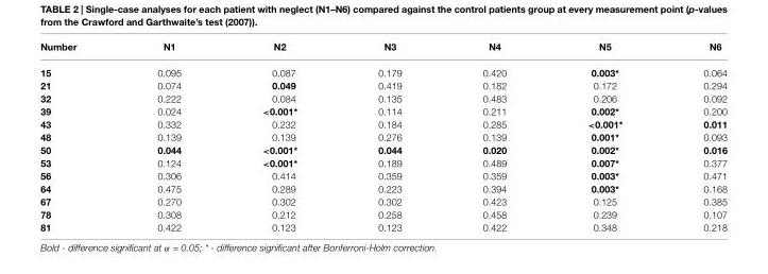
<table><thead><tr><td>Number</td><td>N1</td><td>N2</td><td>N3</td><td>N4</td><td>N5</td><td>N6</td></tr></thead><tbody><tr><td>15</td><td>0.095</td><td>0.087</td><td>0.179</td><td>0.420</td><td>0.003*</td><td>0.064</td></tr><tr><td>21</td><td>0.074</td><td>0.049</td><td>0.419</td><td>0.182</td><td>0.172</td><td>0.294</td></tr><tr><td>32</td><td>0.222</td><td>0.084</td><td>0.135</td><td>0.483</td><td>0.206</td><td>0.092</td></tr><tr><td>39</td><td>0.024</td><td>&lt;0.001*</td><td>0.114</td><td>0.211</td><td>0.002*</td><td>0.200</td></tr><tr><td>43</td><td>0.332</td><td>0.232</td><td>0.184</td><td>0.285</td><td>&lt;0.001*</td><td>0.011</td></tr><tr><td>48</td><td>0.139</td><td>0.139</td><td>0.276</td><td>0.139</td><td>0.001*</td><td>0.093</td></tr><tr><td>50</td><td>0.044</td><td>&lt;0.001*</td><td>0.044</td><td>0.020</td><td>0.002*</td><td>0.016</td></tr><tr><td>53</td><td>0.124</td><td>&lt;0.001*</td><td>0.189</td><td>0.489</td><td>0.007*</td><td>0.377</td></tr><tr><td>56</td><td>0.306</td><td>0.414</td><td>0.359</td><td>0.359</td><td>0.003*</td><td>0.471</td></tr><tr><td>64</td><td>0.475</td><td>0.289</td><td>0.223</td><td>0.394</td><td>0.003*</td><td>0.168</td></tr><tr><td>67</td><td>0.270</td><td>0.302</td><td>0.302</td><td>0.423</td><td>0.125</td><td>0.385</td></tr><tr><td>78</td><td>0.308</td><td>0.212</td><td>0.258</td><td>0.458</td><td>0.239</td><td>0.107</td></tr><tr><td>81</td><td>0.422</td><td>0.123</td><td>0.123</td><td>0.422</td><td>0.348</td><td>0.218</td></tr></tbody></table>